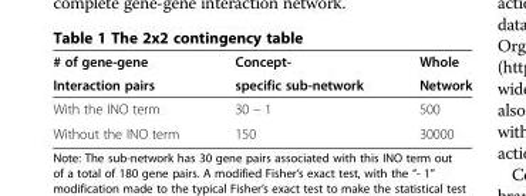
<table><thead><tr><td rowspan="2"># of gene-gene Interaction pairs</td><td rowspan="2">Concept- specific sub-network</td><td rowspan="2">Whole Network</td></tr><tr></tr></thead><tbody><tr><td>With the INO term</td><td>30 – 1</td><td>500</td></tr><tr><td>Without the INO term</td><td>150</td><td>30000</td></tr></tbody></table>